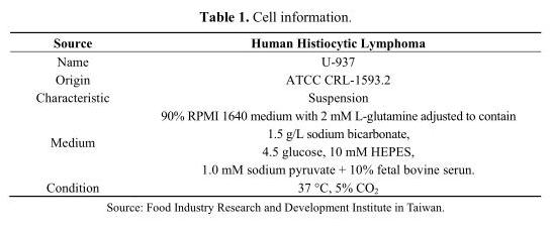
<table><thead><tr><td>Source</td><td>Human Histiocytic Lymphoma</td></tr></thead><tbody><tr><td>Name</td><td>U-937</td></tr><tr><td>Origin</td><td>ATCC CRL-1593.2</td></tr><tr><td>Characteristic</td><td>Suspension</td></tr><tr><td>Medium</td><td>90% RPMI 1640 medium with 2 mM L-glutamine adjusted to contain 1.5 g/L sodium bicarbonate, 4.5 glucose, 10 mM HEPES, 1.0 mM sodium pyruvate + 10% fetal bovine serun.</td></tr><tr><td>Condition</td><td>37 °C, 5% CO<sub>2</sub></td></tr></tbody></table>